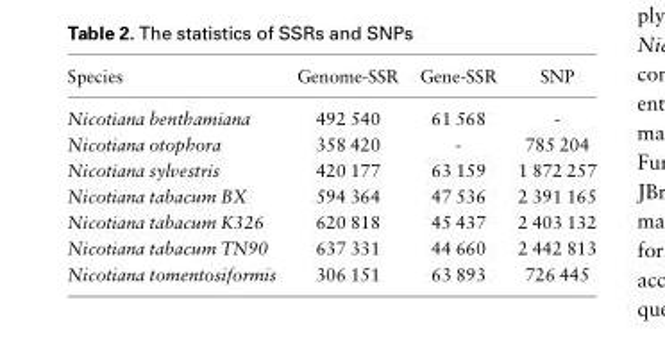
<table><thead><tr><td>Species</td><td>Genome-SSR</td><td>Gene-SSR</td><td>SNP</td></tr></thead><tbody><tr><td>Nicotiana benthamiana</td><td>492 540</td><td>61 568</td><td>-</td></tr><tr><td>Nicotiana otophora</td><td>358 420</td><td>-</td><td>785 204</td></tr><tr><td>Nicotiana sylvestris</td><td>420 177</td><td>63 159</td><td>1 872 257</td></tr><tr><td>Nicotiana tabacum BX</td><td>594 364</td><td>47 536</td><td>2 391 165</td></tr><tr><td>Nicotiana tabacum K326</td><td>620 818</td><td>45 437</td><td>2 403 132</td></tr><tr><td>Nicotiana tabacum TN90</td><td>637 331</td><td>44 660</td><td>2 442 813</td></tr><tr><td>Nicotiana tomentosiformis</td><td>306 151</td><td>63 893</td><td>726 445</td></tr></tbody></table>